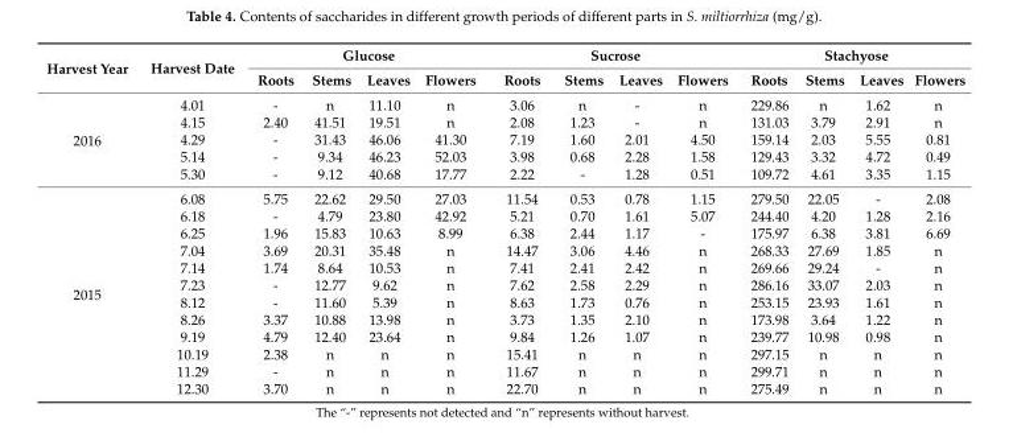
<table><thead><tr><td rowspan="2">Harvest Year</td><td rowspan="2">Harvest Date</td><td colspan="4">Glucose</td><td colspan="4">Sucrose</td><td colspan="4">Stachyose</td></tr><tr><td>Roots</td><td>Stems</td><td>Leaves</td><td>Flowers</td><td>Roots</td><td>Stems</td><td>Leaves</td><td>Flowers</td><td>Roots</td><td>Stems</td><td>Leaves</td><td>Flowers</td></tr></thead><tbody><tr><td rowspan="5">2016</td><td>4.01</td><td>-</td><td>n</td><td>11.10</td><td>n</td><td>3.06</td><td>n</td><td>-</td><td>n</td><td>229.86</td><td>n</td><td>1.62</td><td>n</td></tr><tr><td>4.15</td><td>2.40</td><td>41.51</td><td>19.51</td><td>n</td><td>2.08</td><td>1.23</td><td>-</td><td>n</td><td>131.03</td><td>3.79</td><td>2.91</td><td>n</td></tr><tr><td>4.29</td><td>-</td><td>31.43</td><td>46.06</td><td>41.30</td><td>7.19</td><td>1.60</td><td>2.01</td><td>4.50</td><td>159.14</td><td>2.03</td><td>5.55</td><td>0.81</td></tr><tr><td>5.14</td><td>-</td><td>9.34</td><td>46.23</td><td>52.03</td><td>3.98</td><td>0.68</td><td>2.28</td><td>1.58</td><td>129.43</td><td>3.32</td><td>4.72</td><td>0.49</td></tr><tr><td>5.30</td><td>-</td><td>9.12</td><td>40.68</td><td>17.77</td><td>2.22</td><td>-</td><td>1.28</td><td>0.51</td><td>109.72</td><td>4.61</td><td>3.35</td><td>1.15</td></tr><tr><td rowspan="12">2015</td><td>6.08</td><td>5.75</td><td>22.62</td><td>29.50</td><td>27.03</td><td>11.54</td><td>0.53</td><td>0.78</td><td>1.15</td><td>279.50</td><td>22.05</td><td>-</td><td>2.08</td></tr><tr><td>6.18</td><td>-</td><td>4.79</td><td>23.80</td><td>42.92</td><td>5.21</td><td>0.70</td><td>1.61</td><td>5.07</td><td>244.40</td><td>4.20</td><td>1.28</td><td>2.16</td></tr><tr><td>6.25</td><td>1.96</td><td>15.83</td><td>10.63</td><td>8.99</td><td>6.38</td><td>2.44</td><td>1.17</td><td>-</td><td>175.97</td><td>6.38</td><td>3.81</td><td>6.69</td></tr><tr><td>7.04</td><td>3.69</td><td>20.31</td><td>35.48</td><td>n</td><td>14.47</td><td>3.06</td><td>4.46</td><td>n</td><td>268.33</td><td>27.69</td><td>1.85</td><td>n</td></tr><tr><td>7.14</td><td>1.74</td><td>8.64</td><td>10.53</td><td>n</td><td>7.41</td><td>2.41</td><td>2.42</td><td>n</td><td>269.66</td><td>29.24</td><td>-</td><td>n</td></tr><tr><td>7.23</td><td>-</td><td>12.77</td><td>9.62</td><td>n</td><td>7.62</td><td>2.58</td><td>2.29</td><td>n</td><td>286.16</td><td>33.07</td><td>2.03</td><td>n</td></tr><tr><td>8.12</td><td>-</td><td>11.60</td><td>5.39</td><td>n</td><td>8.63</td><td>1.73</td><td>0.76</td><td>n</td><td>253.15</td><td>23.93</td><td>1.61</td><td>n</td></tr><tr><td>8.26</td><td>3.37</td><td>10.88</td><td>13.98</td><td>n</td><td>3.73</td><td>1.35</td><td>2.10</td><td>n</td><td>173.98</td><td>3.64</td><td>1.22</td><td>n</td></tr><tr><td>9.19</td><td>4.79</td><td>12.40</td><td>23.64</td><td>n</td><td>9.84</td><td>1.26</td><td>1.07</td><td>n</td><td>239.77</td><td>10.98</td><td>0.98</td><td>n</td></tr><tr><td>10.19</td><td>2.38</td><td>n</td><td>n</td><td>n</td><td>15.41</td><td>n</td><td>n</td><td>n</td><td>297.15</td><td>n</td><td>n</td><td>n</td></tr><tr><td>11.29</td><td>-</td><td>n</td><td>n</td><td>n</td><td>11.67</td><td>n</td><td>n</td><td>n</td><td>299.71</td><td>n</td><td>n</td><td>n</td></tr><tr><td>12.30</td><td>3.70</td><td>n</td><td>n</td><td>n</td><td>22.70</td><td>n</td><td>n</td><td>n</td><td>275.49</td><td>n</td><td>n</td><td>n</td></tr></tbody></table>